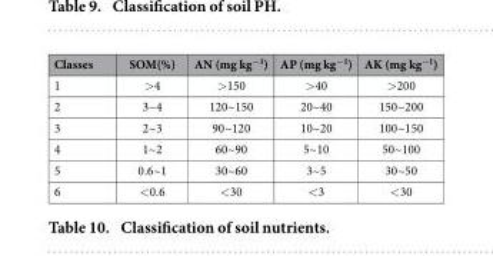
<table><thead><tr><td>Classes</td><td>SOM(%)</td><td>AN (mg kg<sup>−1</sup>)</td><td>AP (mg kg<sup>−1</sup>)</td><td>AK (mg kg<sup>−1</sup>)</td></tr></thead><tbody><tr><td>1</td><td>&gt; 4</td><td>&gt; 150</td><td>&gt; 40</td><td>&gt; 200</td></tr><tr><td>2</td><td>3~4</td><td>120~150</td><td>20~40</td><td>150~200</td></tr><tr><td>3</td><td>2~3</td><td>90~120</td><td>10~20</td><td>100~150</td></tr><tr><td>4</td><td>1~2</td><td>60~90</td><td>5~10</td><td>50~100</td></tr><tr><td>5</td><td>0.6~1</td><td>30~60</td><td>3~5</td><td>30~50</td></tr><tr><td>6</td><td>&lt; 0.6</td><td>&lt; 30</td><td>&lt; 3</td><td>&lt; 30</td></tr></tbody></table>